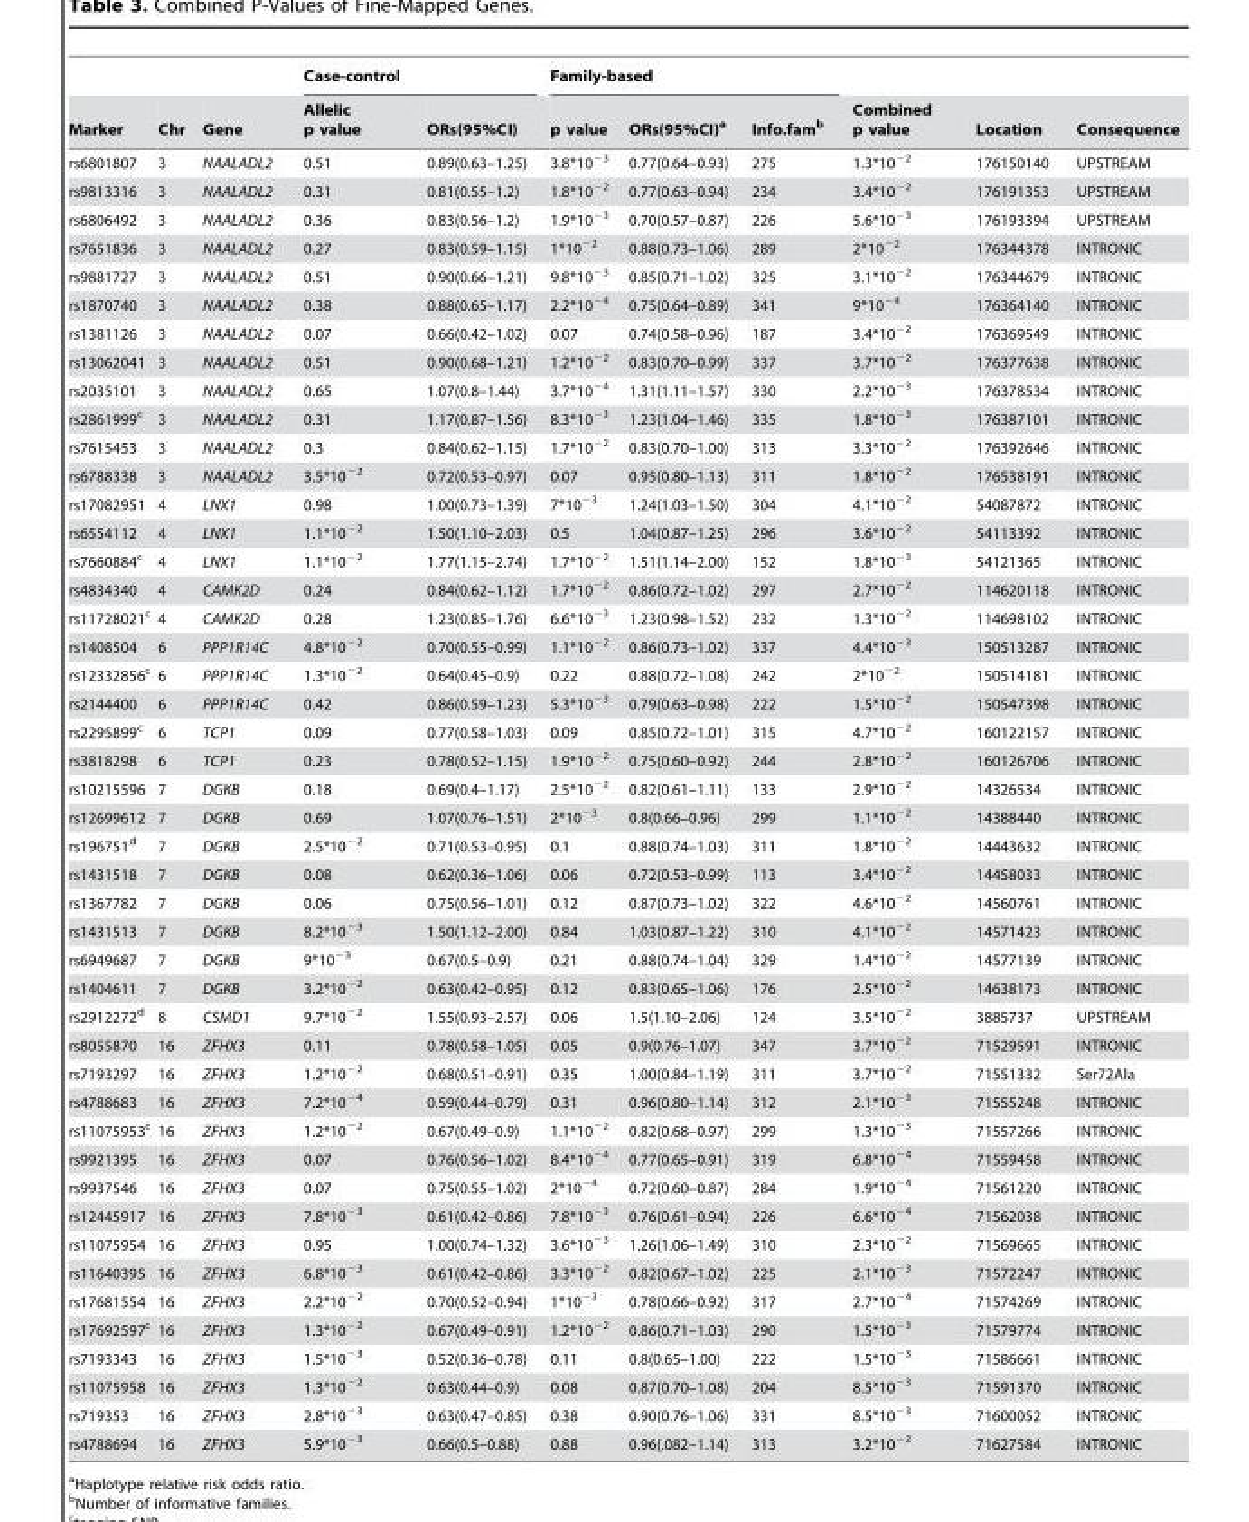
<table><thead><tr><td rowspan="2">Marker</td><td rowspan="2">Chr</td><td rowspan="2">Gene</td><td colspan="2">Case-control</td><td colspan="3">Family-based</td><td rowspan="2">Combined p value</td><td rowspan="2">Location</td><td rowspan="2">Consequence</td></tr><tr><td>Allelic p value</td><td>ORs(95%CI)</td><td>p value</td><td>ORs(95%CI)<sup>a</sup></td><td>Info.fam<sup>b</sup></td></tr></thead><tbody><tr><td>rs6801807</td><td>3</td><td>NAALADL2</td><td>0.51</td><td>0.89(0.63–1.25)</td><td>3.8*10<sup>−3</sup></td><td>0.77(0.64–0.93)</td><td>275</td><td>1.3*10<sup>−2</sup></td><td>176150140</td><td>UPSTREAM</td></tr><tr><td>rs9813316</td><td>3</td><td>NAALADL2</td><td>0.31</td><td>0.81(0.55–1.2)</td><td>1.8*10<sup>−2</sup></td><td>0.77(0.63–0.94)</td><td>234</td><td>3.4*10<sup>−2</sup></td><td>176191353</td><td>UPSTREAM</td></tr><tr><td>rs6806492</td><td>3</td><td>NAALADL2</td><td>0.36</td><td>0.83(0.56–1.2)</td><td>1.9*10<sup>−3</sup></td><td>0.70(0.57–0.87)</td><td>226</td><td>5.6*10<sup>−3</sup></td><td>176193394</td><td>UPSTREAM</td></tr><tr><td>rs7651836</td><td>3</td><td>NAALADL2</td><td>0.27</td><td>0.83(0.59–1.15)</td><td>1*10<sup>−2</sup></td><td>0.88(0.73–1.06)</td><td>289</td><td>2*10<sup>−2</sup></td><td>176344378</td><td>INTRONIC</td></tr><tr><td>rs9881727</td><td>3</td><td>NAALADL2</td><td>0.51</td><td>0.90(0.66–1.21)</td><td>9.8*10<sup>−3</sup></td><td>0.85(0.71–1.02)</td><td>325</td><td>3.1*10<sup>−2</sup></td><td>176344679</td><td>INTRONIC</td></tr><tr><td>rs1870740</td><td>3</td><td>NAALADL2</td><td>0.38</td><td>0.88(0.65–1.17)</td><td>2.2*10<sup>−4</sup></td><td>0.75(0.64–0.89)</td><td>341</td><td>9*10<sup>−4</sup></td><td>176364140</td><td>INTRONIC</td></tr><tr><td>rs1381126</td><td>3</td><td>NAALADL2</td><td>0.07</td><td>0.66(0.42–1.02)</td><td>0.07</td><td>0.74(0.58–0.96)</td><td>187</td><td>3.4*10<sup>−2</sup></td><td>176369549</td><td>INTRONIC</td></tr><tr><td>rs13062041</td><td>3</td><td>NAALADL2</td><td>0.51</td><td>0.90(0.68–1.21)</td><td>1.2*10<sup>−2</sup></td><td>0.83(0.70–0.99)</td><td>337</td><td>3.7*10<sup>−2</sup></td><td>176377638</td><td>INTRONIC</td></tr><tr><td>rs2035101</td><td>3</td><td>NAALADL2</td><td>0.65</td><td>1.07(0.8–1.44)</td><td>3.7*10<sup>−4</sup></td><td>1.31(1.11–1.57)</td><td>330</td><td>2.2*10<sup>−3</sup></td><td>176378534</td><td>INTRONIC</td></tr><tr><td>rs2861999<sup>c</sup></td><td>3</td><td>NAALADL2</td><td>0.31</td><td>1.17(0.87–1.56)</td><td>8.3*10<sup>−3</sup></td><td>1.23(1.04–1.46)</td><td>335</td><td>1.8*10<sup>−3</sup></td><td>176387101</td><td>INTRONIC</td></tr><tr><td>rs7615453</td><td>3</td><td>NAALADL2</td><td>0.3</td><td>0.84(0.62–1.15)</td><td>1.7*10<sup>−2</sup></td><td>0.83(0.70–1.00)</td><td>313</td><td>3.3*10<sup>−2</sup></td><td>176392646</td><td>INTRONIC</td></tr><tr><td>rs6788338</td><td>3</td><td>NAALADL2</td><td>3.5*10<sup>−2</sup></td><td>0.72(0.53–0.97)</td><td>0.07</td><td>0.95(0.80–1.13)</td><td>311</td><td>1.8*10<sup>−2</sup></td><td>176538191</td><td>INTRONIC</td></tr><tr><td>rs17082951</td><td>4</td><td>LNX1</td><td>0.98</td><td>1.00(0.73–1.39)</td><td>7*10<sup>−3</sup></td><td>1.24(1.03–1.50)</td><td>304</td><td>4.1*10<sup>−2</sup></td><td>54087872</td><td>INTRONIC</td></tr><tr><td>rs6554112</td><td>4</td><td>LNX1</td><td>1.1*10<sup>−2</sup></td><td>1.50(1.10–2.03)</td><td>0.5</td><td>1.04(0.87–1.25)</td><td>296</td><td>3.6*10<sup>−2</sup></td><td>54113392</td><td>INTRONIC</td></tr><tr><td>rs7660884<sup>c</sup></td><td>4</td><td>LNX1</td><td>1.1*10<sup>−2</sup></td><td>1.77(1.15–2.74)</td><td>1.7*10<sup>−2</sup></td><td>1.51(1.14–2.00)</td><td>152</td><td>1.8*10<sup>−3</sup></td><td>54121365</td><td>INTRONIC</td></tr><tr><td>rs4834340</td><td>4</td><td>CAMK2D</td><td>0.24</td><td>0.84(0.62–1.12)</td><td>1.7*10<sup>−2</sup></td><td>0.86(0.72–1.02)</td><td>297</td><td>2.7*10<sup>−2</sup></td><td>114620118</td><td>INTRONIC</td></tr><tr><td>rs11728021<sup>c</sup></td><td>4</td><td>CAMK2D</td><td>0.28</td><td>1.23(0.85–1.76)</td><td>6.6*10<sup>−3</sup></td><td>1.23(0.98–1.52)</td><td>232</td><td>1.3*10<sup>−2</sup></td><td>114698102</td><td>INTRONIC</td></tr><tr><td>rs1408504</td><td>6</td><td>PPP1R14C</td><td>4.8*10<sup>−2</sup></td><td>0.70(0.55–0.99)</td><td>1.1*10<sup>−2</sup></td><td>0.86(0.73–1.02)</td><td>337</td><td>4.4*10<sup>−3</sup></td><td>150513287</td><td>INTRONIC</td></tr><tr><td>rs12332856<sup>c</sup></td><td>6</td><td>PPP1R14C</td><td>1.3*10<sup>−2</sup></td><td>0.64(0.45–0.9)</td><td>0.22</td><td>0.88(0.72–1.08)</td><td>242</td><td>2*10<sup>−2</sup></td><td>150514181</td><td>INTRONIC</td></tr><tr><td>rs2144400</td><td>6</td><td>PPP1R14C</td><td>0.42</td><td>0.86(0.59–1.23)</td><td>5.3*10<sup>−3</sup></td><td>0.79(0.63–0.98)</td><td>222</td><td>1.5*10<sup>−2</sup></td><td>150547398</td><td>INTRONIC</td></tr><tr><td>rs2295899<sup>c</sup></td><td>6</td><td>TCP1</td><td>0.09</td><td>0.77(0.58–1.03)</td><td>0.09</td><td>0.85(0.72–1.01)</td><td>315</td><td>4.7*10<sup>−2</sup></td><td>160122157</td><td>INTRONIC</td></tr><tr><td>rs3818298</td><td>6</td><td>TCP1</td><td>0.23</td><td>0.78(0.52–1.15)</td><td>1.9*10<sup>−2</sup></td><td>0.75(0.60–0.92)</td><td>244</td><td>2.8*10<sup>−2</sup></td><td>160126706</td><td>INTRONIC</td></tr><tr><td>rs10215596</td><td>7</td><td>DGKB</td><td>0.18</td><td>0.69(0.4–1.17)</td><td>2.5*10<sup>−2</sup></td><td>0.82(0.61–1.11)</td><td>133</td><td>2.9*10<sup>−2</sup></td><td>14326534</td><td>INTRONIC</td></tr><tr><td>rs12699612</td><td>7</td><td>DGKB</td><td>0.69</td><td>1.07(0.76–1.51)</td><td>2*10<sup>−3</sup></td><td>0.8(0.66–0.96)</td><td>299</td><td>1.1*10<sup>−2</sup></td><td>14388440</td><td>INTRONIC</td></tr><tr><td>rs196751<sup>d</sup></td><td>7</td><td>DGKB</td><td>2.5*10<sup>−2</sup></td><td>0.71(0.53–0.95)</td><td>0.1</td><td>0.88(0.74–1.03)</td><td>311</td><td>1.8*10<sup>−2</sup></td><td>14443632</td><td>INTRONIC</td></tr><tr><td>rs1431518</td><td>7</td><td>DGKB</td><td>0.08</td><td>0.62(0.36–1.06)</td><td>0.06</td><td>0.72(0.53–0.99)</td><td>113</td><td>3.4*10<sup>−2</sup></td><td>14458033</td><td>INTRONIC</td></tr><tr><td>rs1367782</td><td>7</td><td>DGKB</td><td>0.06</td><td>0.75(0.56–1.01)</td><td>0.12</td><td>0.87(0.73–1.02)</td><td>322</td><td>4.6*10<sup>−2</sup></td><td>14560761</td><td>INTRONIC</td></tr><tr><td>rs1431513</td><td>7</td><td>DGKB</td><td>8.2*10<sup>−3</sup></td><td>1.50(1.12–2.00)</td><td>0.84</td><td>1.03(0.87–1.22)</td><td>310</td><td>4.1*10<sup>−2</sup></td><td>14571423</td><td>INTRONIC</td></tr><tr><td>rs6949687</td><td>7</td><td>DGKB</td><td>9*10<sup>−3</sup></td><td>0.67(0.5–0.9)</td><td>0.21</td><td>0.88(0.74–1.04)</td><td>329</td><td>1.4*10<sup>−2</sup></td><td>14577139</td><td>INTRONIC</td></tr><tr><td>rs1404611</td><td>7</td><td>DGKB</td><td>3.2*10<sup>−2</sup></td><td>0.63(0.42–0.95)</td><td>0.12</td><td>0.83(0.65–1.06)</td><td>176</td><td>2.5*10<sup>−2</sup></td><td>14638173</td><td>INTRONIC</td></tr><tr><td>rs2912272<sup>d</sup></td><td>8</td><td>CSMD1</td><td>9.7*10<sup>−2</sup></td><td>1.55(0.93–2.57)</td><td>0.06</td><td>1.5(1.10–2.06)</td><td>124</td><td>3.5*10<sup>−2</sup></td><td>3885737</td><td>UPSTREAM</td></tr><tr><td>rs8055870</td><td>16</td><td>ZFHX3</td><td>0.11</td><td>0.78(0.58–1.05)</td><td>0.05</td><td>0.9(0.76–1.07)</td><td>347</td><td>3.7*10<sup>−2</sup></td><td>71529591</td><td>INTRONIC</td></tr><tr><td>rs7193297</td><td>16</td><td>ZFHX3</td><td>1.2*10<sup>−2</sup></td><td>0.68(0.51–0.91)</td><td>0.35</td><td>1.00(0.84–1.19)</td><td>311</td><td>3.7*10<sup>−2</sup></td><td>71551332</td><td>Ser72Ala</td></tr><tr><td>rs4788683</td><td>16</td><td>ZFHX3</td><td>7.2*10<sup>−4</sup></td><td>0.59(0.44–0.79)</td><td>0.31</td><td>0.96(0.80–1.14)</td><td>312</td><td>2.1*10<sup>−3</sup></td><td>71555248</td><td>INTRONIC</td></tr><tr><td>rs11075953<sup>c</sup></td><td>16</td><td>ZFHX3</td><td>1.2*10<sup>−2</sup></td><td>0.67(0.49–0.9)</td><td>1.1*10<sup>−2</sup></td><td>0.82(0.68–0.97)</td><td>299</td><td>1.3*10<sup>−3</sup></td><td>71557266</td><td>INTRONIC</td></tr><tr><td>rs9921395</td><td>16</td><td>ZFHX3</td><td>0.07</td><td>0.76(0.56–1.02)</td><td>8.4*10<sup>−4</sup></td><td>0.77(0.65–0.91)</td><td>319</td><td>6.8*10<sup>−4</sup></td><td>71559458</td><td>INTRONIC</td></tr><tr><td>rs9937546</td><td>16</td><td>ZFHX3</td><td>0.07</td><td>0.75(0.55–1.02)</td><td>2*10<sup>−4</sup></td><td>0.72(0.60–0.87)</td><td>284</td><td>1.9*10<sup>−4</sup></td><td>71561220</td><td>INTRONIC</td></tr><tr><td>rs12445917</td><td>16</td><td>ZFHX3</td><td>7.8*10<sup>−3</sup></td><td>0.61(0.42–0.86)</td><td>7.8*10<sup>−3</sup></td><td>0.76(0.61–0.94)</td><td>226</td><td>6.6*10<sup>−4</sup></td><td>71562038</td><td>INTRONIC</td></tr><tr><td>rs11075954</td><td>16</td><td>ZFHX3</td><td>0.95</td><td>1.00(0.74–1.32)</td><td>3.6*10<sup>−3</sup></td><td>1.26(1.06–1.49)</td><td>310</td><td>2.3*10<sup>−2</sup></td><td>71569665</td><td>INTRONIC</td></tr><tr><td>rs11640395</td><td>16</td><td>ZFHX3</td><td>6.8*10<sup>−3</sup></td><td>0.61(0.42–0.86)</td><td>3.3*10<sup>−2</sup></td><td>0.82(0.67–1.02)</td><td>225</td><td>2.1*10<sup>−3</sup></td><td>71572247</td><td>INTRONIC</td></tr><tr><td>rs17681554</td><td>16</td><td>ZFHX3</td><td>2.2*10<sup>−2</sup></td><td>0.70(0.52–0.94)</td><td>1*10<sup>−3</sup></td><td>0.78(0.66–0.92)</td><td>317</td><td>2.7*10<sup>−4</sup></td><td>71574269</td><td>INTRONIC</td></tr><tr><td>rs17692597<sup>c</sup></td><td>16</td><td>ZFHX3</td><td>1.3*10<sup>−2</sup></td><td>0.67(0.49–0.91)</td><td>1.2*10<sup>−2</sup></td><td>0.86(0.71–1.03)</td><td>290</td><td>1.5*10<sup>−3</sup></td><td>71579774</td><td>INTRONIC</td></tr><tr><td>rs7193343</td><td>16</td><td>ZFHX3</td><td>1.5*10<sup>−3</sup></td><td>0.52(0.36–0.78)</td><td>0.11</td><td>0.8(0.65–1.00)</td><td>222</td><td>1.5*10<sup>−3</sup></td><td>71586661</td><td>INTRONIC</td></tr><tr><td>rs11075958</td><td>16</td><td>ZFHX3</td><td>1.3*10<sup>−2</sup></td><td>0.63(0.44–0.9)</td><td>0.08</td><td>0.87(0.70–1.08)</td><td>204</td><td>8.5*10<sup>−3</sup></td><td>71591370</td><td>INTRONIC</td></tr><tr><td>rs719353</td><td>16</td><td>ZFHX3</td><td>2.8*10<sup>−3</sup></td><td>0.63(0.47–0.85)</td><td>0.38</td><td>0.90(0.76–1.06)</td><td>331</td><td>8.5*10<sup>−3</sup></td><td>71600052</td><td>INTRONIC</td></tr><tr><td>rs4788694</td><td>16</td><td>ZFHX3</td><td>5.9*10<sup>−3</sup></td><td>0.66(0.5–0.88)</td><td>0.88</td><td>0.96(.082–1.14)</td><td>313</td><td>3.2*10<sup>−2</sup></td><td>71627584</td><td>INTRONIC</td></tr></tbody></table>